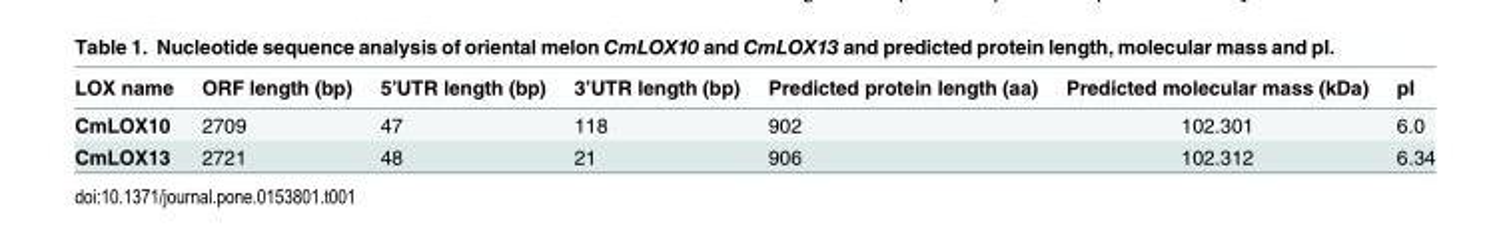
<table><thead><tr><td>LOX name</td><td>ORF length (bp)</td><td>5’UTR length (bp)</td><td>3’UTR length (bp)</td><td>Predicted protein length (aa)</td><td>Predicted molecular mass (kDa)</td><td>pI</td></tr></thead><tbody><tr><td>CmLOX10</td><td>2709</td><td>47</td><td>118</td><td>902</td><td>102.301</td><td>6.0</td></tr><tr><td>CmLOX13</td><td>2721</td><td>48</td><td>21</td><td>906</td><td>102.312</td><td>6.34</td></tr></tbody></table>